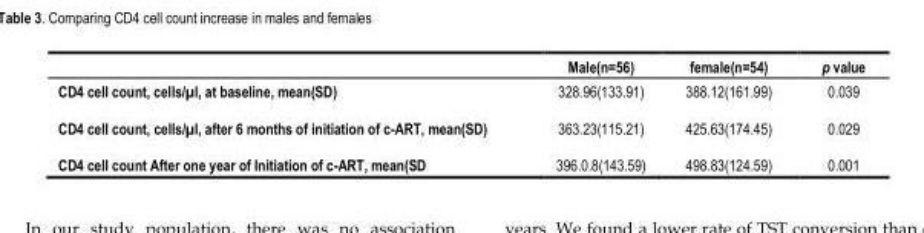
<table><thead><tr><td></td><td>Male(n=56)</td><td>female(n=54)</td><td>p value</td></tr></thead><tbody><tr><td>CD4 cell count, cells/µl, at baseline, mean(SD)</td><td>328.96(133.91)</td><td>388.12(161.99)</td><td>0.039</td></tr><tr><td>CD4 cell count, cells/µl, after 6 months of initiation of c-ART, mean(SD)</td><td>363.23(115.21)</td><td>425.63(174.45)</td><td>0.029</td></tr><tr><td>CD4 cell count After one year of Initiation of c-ART, mean(SD</td><td>396.0.8(143.59)</td><td>498.83(124.59)</td><td>0.001</td></tr></tbody></table>